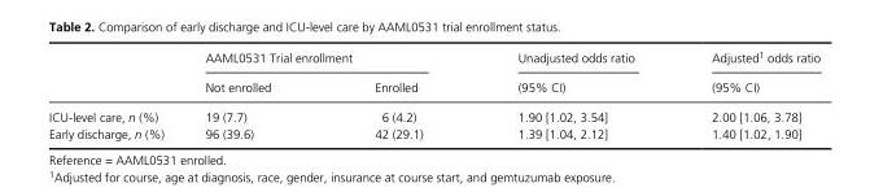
<table><thead><tr><td rowspan="2"></td><td colspan="2">AAML0531 Trial enrollment</td><td rowspan="2">Unadjusted odds ratio (95% CI)</td><td rowspan="2">Adjusted1 odds ratio (95% CI)</td></tr><tr><td>Not enrolled</td><td>Enrolled</td></tr></thead><tbody><tr><td>ICU- level care, n (%)</td><td>19 (7.7)</td><td>6 (4.2)</td><td>1.90 [1.02, 3.54]</td><td>2.00 [1.06, 3.78]</td></tr><tr><td>Early discharge, n (%)</td><td>96 (39.6)</td><td>42 (29.1)</td><td>1.39 [1.04, 2.12]</td><td>1.40 [1.02, 1.90]</td></tr></tbody></table>